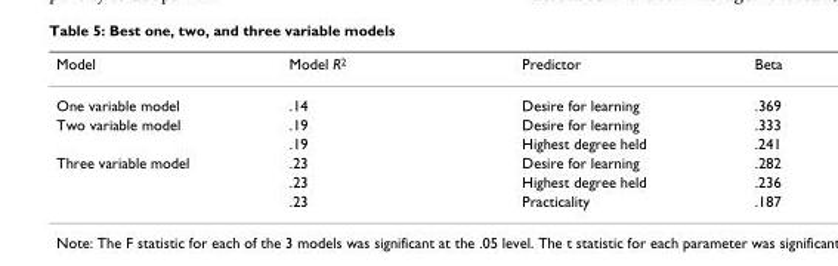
<table><thead><tr><td>Model</td><td>Model R<sup>2</sup></td><td>Predictor</td><td>Beta</td></tr></thead><tbody><tr><td>One variable model</td><td>.14</td><td>Desire for learning</td><td>.369</td></tr><tr><td rowspan="2">Two variable model</td><td>.19</td><td>Desire for learning</td><td>.333</td></tr><tr><td>.19</td><td>Highest degree held</td><td>.241</td></tr><tr><td rowspan="3">Three variable model</td><td>.23</td><td>Desire for learning</td><td>.282</td></tr><tr><td>.23</td><td>Highest degree held</td><td>.236</td></tr><tr><td>.23</td><td>Practicality</td><td>.187</td></tr></tbody></table>